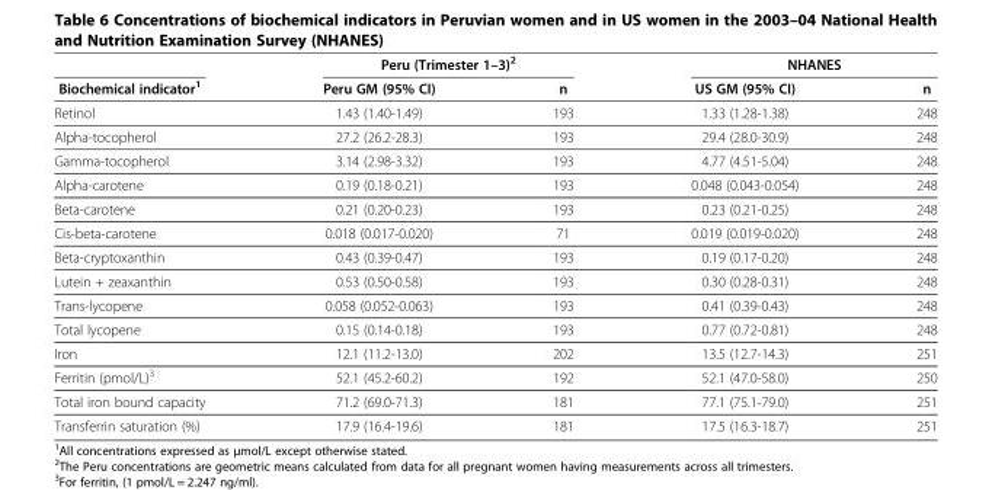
<table><thead><tr><td rowspan="2">Biochemical indicator<sup>1</sup></td><td colspan="2">Peru (Trimester 1–3)<sup>2</sup></td><td colspan="2">NHANES</td></tr><tr><td>Peru GM (95% CI)</td><td>n</td><td>US GM (95% CI)</td><td>n</td></tr></thead><tbody><tr><td>Retinol</td><td>1.43 (1.40-1.49)</td><td>193</td><td>1.33 (1.28-1.38)</td><td>248</td></tr><tr><td>Alpha-tocopherol</td><td>27.2 (26.2-28.3)</td><td>193</td><td>29.4 (28.0-30.9)</td><td>248</td></tr><tr><td>Gamma-tocopherol</td><td>3.14 (2.98-3.32)</td><td>193</td><td>4.77 (4.51-5.04)</td><td>248</td></tr><tr><td>Alpha-carotene</td><td>0.19 (0.18-0.21)</td><td>193</td><td>0.048 (0.043-0.054)</td><td>248</td></tr><tr><td>Beta-carotene</td><td>0.21 (0.20-0.23)</td><td>193</td><td>0.23 (0.21-0.25)</td><td>248</td></tr><tr><td>Cis-beta-carotene</td><td>0.018 (0.017-0.020)</td><td>71</td><td>0.019 (0.019-0.020)</td><td>248</td></tr><tr><td>Beta-cryptoxanthin</td><td>0.43 (0.39-0.47)</td><td>193</td><td>0.19 (0.17-0.20)</td><td>248</td></tr><tr><td>Lutein + zeaxanthin</td><td>0.53 (0.50-0.58)</td><td>193</td><td>0.30 (0.28-0.31)</td><td>248</td></tr><tr><td>Trans-lycopene</td><td>0.058 (0.052-0.063)</td><td>193</td><td>0.41 (0.39-0.43)</td><td>248</td></tr><tr><td>Total lycopene</td><td>0.15 (0.14-0.18)</td><td>193</td><td>0.77 (0.72-0.81)</td><td>248</td></tr><tr><td>Iron</td><td>12.1 (11.2-13.0)</td><td>202</td><td>13.5 (12.7-14.3)</td><td>251</td></tr><tr><td>Ferritin (pmol/L)<sup>3</sup></td><td>52.1 (45.2-60.2)</td><td>192</td><td>52.1 (47.0-58.0)</td><td>250</td></tr><tr><td>Total iron bound capacity</td><td>71.2 (69.0-71.3)</td><td>181</td><td>77.1 (75.1-79.0)</td><td>251</td></tr><tr><td>Transferrin saturation (%)</td><td>17.9 (16.4-19.6)</td><td>181</td><td>17.5 (16.3-18.7)</td><td>251</td></tr></tbody></table>